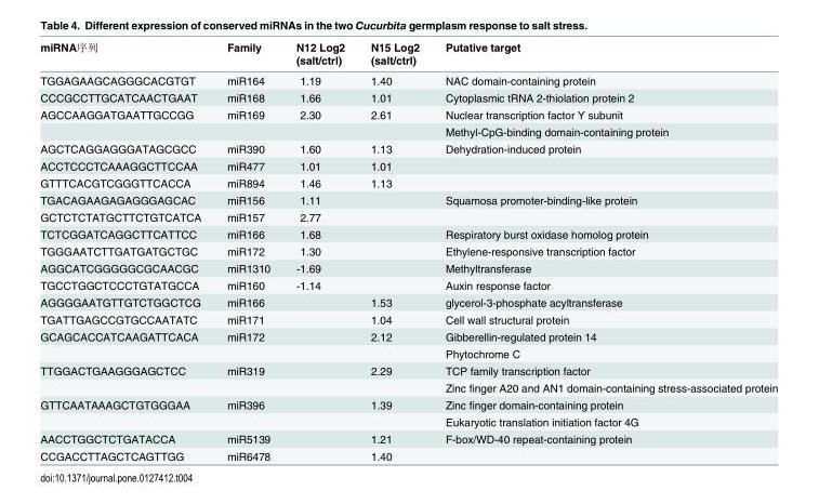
<table><thead><tr><td>miRNA序列</td><td>Family</td><td>N12 Log2 (salt/ctrl)</td><td>N15 Log2 (salt/ctrl)</td><td>Putative target</td></tr></thead><tbody><tr><td>TGGAGAAGCAGGGCACGTGT</td><td>miR164</td><td>1.19</td><td>1.40</td><td>NAC domain-containing protein</td></tr><tr><td>CCCGCCTTGCATCAACTGAAT</td><td>miR168</td><td>1.66</td><td>1.01</td><td>Cytoplasmic tRNA 2-thiolation protein 2</td></tr><tr><td rowspan="2">AGCCAAGGATGAATTGCCGG</td><td>miR169</td><td>2.30</td><td>2.61</td><td>Nuclear transcription factor Y subunit</td></tr><tr><td></td><td></td><td></td><td>Methyl-CpG-binding domain-containing protein</td></tr><tr><td>AGCTCAGGAGGGATAGCGCC</td><td>miR390</td><td>1.60</td><td>1.13</td><td>Dehydration-induced protein</td></tr><tr><td>ACCTCCCTCAAAGGCTTCCAA</td><td>miR477</td><td>1.01</td><td>1.01</td><td></td></tr><tr><td>GTTTCACGTCGGGTTCACCA</td><td>miR894</td><td>1.46</td><td>1.13</td><td></td></tr><tr><td>TGACAGAAGAGAGGGAGCAC</td><td>miR156</td><td>1.11</td><td></td><td>Squamosa promoter-binding-like protein</td></tr><tr><td>GCTCTCTATGCTTCTGTCATCA</td><td>miR157</td><td>2.77</td><td></td><td></td></tr><tr><td>TCTCGGATCAGGCTTCATTCC</td><td>miR166</td><td>1.68</td><td></td><td>Respiratory burst oxidase homolog protein</td></tr><tr><td>TGGGAATCTTGATGATGCTGC</td><td>miR172</td><td>1.30</td><td></td><td>Ethylene-responsive transcription factor</td></tr><tr><td>AGGCATCGGGGGCGCAACGC</td><td>miR1310</td><td>-1.69</td><td></td><td>Methyltransferase</td></tr><tr><td>TGCCTGGCTCCCTGTATGCCA</td><td>miR160</td><td>-1.14</td><td></td><td>Auxin response factor</td></tr><tr><td>AGGGGAATGTTGTCTGGCTCG</td><td>miR166</td><td></td><td>1.53</td><td>glycerol-3-phosphate acyltransferase</td></tr><tr><td>TGATTGAGCCGTGCCAATATC</td><td>miR171</td><td></td><td>1.04</td><td>Cell wall structural protein</td></tr><tr><td rowspan="2">GCAGCACCATCAAGATTCACA</td><td>miR172</td><td></td><td>2.12</td><td>Gibberellin-regulated protein 14</td></tr><tr><td></td><td></td><td></td><td>Phytochrome C</td></tr><tr><td rowspan="2">TTGGACTGAAGGGAGCTCC</td><td>miR319</td><td></td><td>2.29</td><td>TCP family transcription factor</td></tr><tr><td></td><td></td><td></td><td>Zinc finger A20 and AN1 domain-containing stress-associated protein</td></tr><tr><td rowspan="2">GTTCAATAAAGCTGTGGGAA</td><td>miR396</td><td></td><td>1.39</td><td>Zinc finger domain-containing protein</td></tr><tr><td></td><td></td><td></td><td>Eukaryotic translation initiation factor 4G</td></tr><tr><td>AACCTGGCTCTGATACCA</td><td>miR5139</td><td></td><td>1.21</td><td>F-box/WD-40 repeat-containing protein</td></tr><tr><td>CCGACCTTAGCTCAGTTGG</td><td>miR6478</td><td></td><td>1.40</td><td></td></tr></tbody></table>